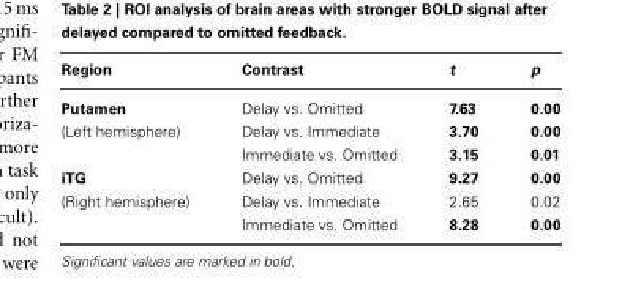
<table><thead><tr><td>Region</td><td>Contrast</td><td>t</td><td>p</td></tr></thead><tbody><tr><td>Putamen</td><td>Delay vs. Omitted</td><td>7.63</td><td>0.00</td></tr><tr><td rowspan="2">(Left hemisphere)</td><td>Delay vs. Immediate</td><td>3.70</td><td>0.00</td></tr><tr><td>Immediate vs. Omitted</td><td>3.15</td><td>0.01</td></tr><tr><td>iTG</td><td>Delay vs. Omitted</td><td>9.27</td><td>0.00</td></tr><tr><td rowspan="2">(Right hemisphere)</td><td>Delay vs. Immediate</td><td>2.65</td><td>0.02</td></tr><tr><td>Immediate vs. Omitted</td><td>8.28</td><td>0.00</td></tr></tbody></table>